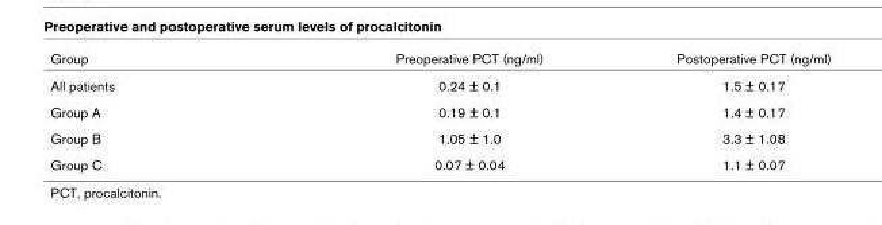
<table><thead><tr><td>Group</td><td>Preoperative PCT (ng/ml)</td><td>Postoperative PCT (ng/ml)</td></tr></thead><tbody><tr><td>All patients</td><td>0.24 ± 0.1</td><td>1.5 ± 0.17</td></tr><tr><td>Group A</td><td>0.19 ± 0.1</td><td>1.4 ± 0.17</td></tr><tr><td>Group B</td><td>1.05 ± 1.0</td><td>3.3 ± 1.08</td></tr><tr><td>Group C</td><td>0.07 ± 0.04</td><td>1.1 ± 0.07</td></tr></tbody></table>